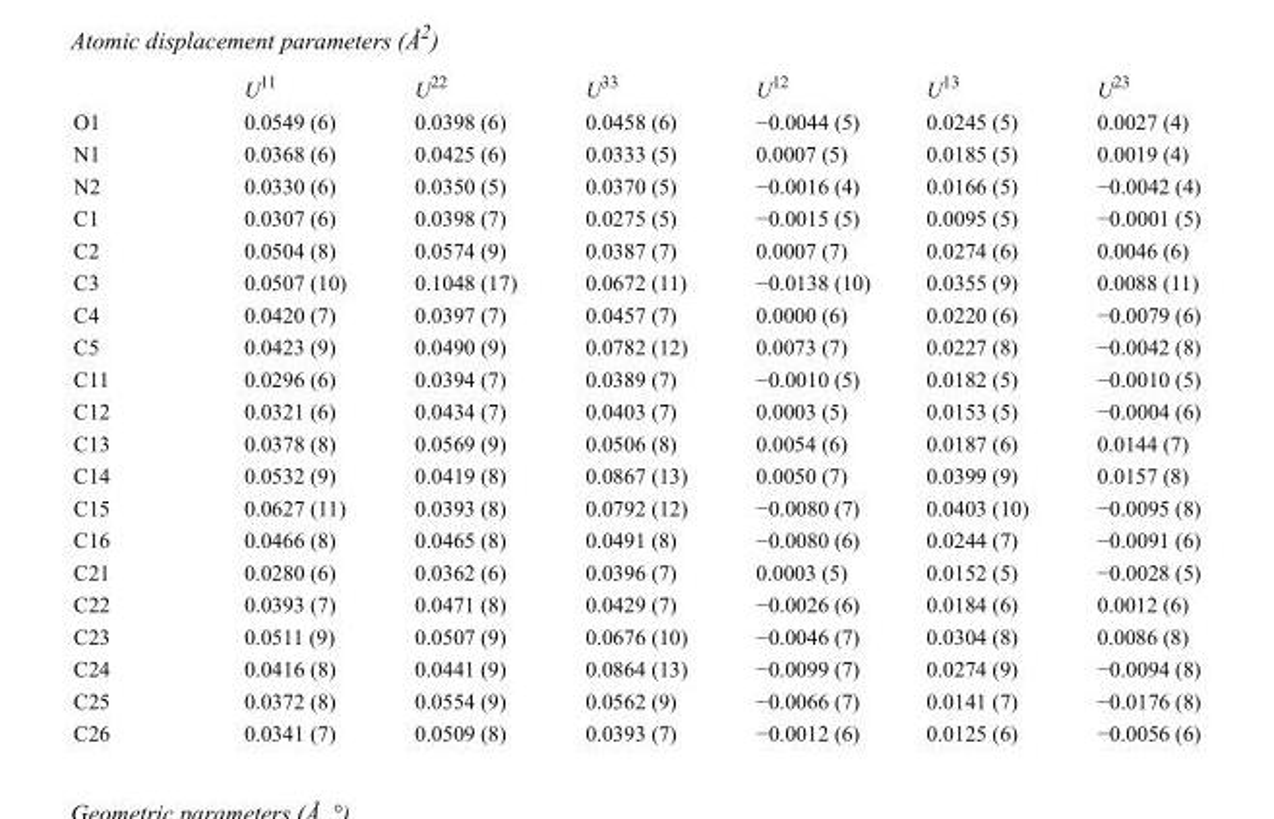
<table><thead><tr><td></td><td>U<sup>11</sup></td><td>U<sup>22</sup></td><td>U<sup>33</sup></td><td>U<sup>12</sup></td><td>U<sup>13</sup></td><td>U<sup>23</sup></td></tr></thead><tbody><tr><td>O1</td><td>0.0549 (6)</td><td>0.0398 (6)</td><td>0.0458 (6)</td><td>−0.0044 (5)</td><td>0.0245 (5)</td><td>0.0027 (4)</td></tr><tr><td>N1</td><td>0.0368 (6)</td><td>0.0425 (6)</td><td>0.0333 (5)</td><td>0.0007 (5)</td><td>0.0185 (5)</td><td>0.0019 (4)</td></tr><tr><td>N2</td><td>0.0330 (6)</td><td>0.0350 (5)</td><td>0.0370 (5)</td><td>−0.0016 (4)</td><td>0.0166 (5)</td><td>−0.0042 (4)</td></tr><tr><td>C1</td><td>0.0307 (6)</td><td>0.0398 (7)</td><td>0.0275 (5)</td><td>−0.0015 (5)</td><td>0.0095 (5)</td><td>−0.0001 (5)</td></tr><tr><td>C2</td><td>0.0504 (8)</td><td>0.0574 (9)</td><td>0.0387 (7)</td><td>0.0007 (7)</td><td>0.0274 (6)</td><td>0.0046 (6)</td></tr><tr><td>C3</td><td>0.0507 (10)</td><td>0.1048 (17)</td><td>0.0672 (11)</td><td>−0.0138 (10)</td><td>0.0355 (9)</td><td>0.0088 (11)</td></tr><tr><td>C4</td><td>0.0420 (7)</td><td>0.0397 (7)</td><td>0.0457 (7)</td><td>0.0000 (6)</td><td>0.0220 (6)</td><td>−0.0079 (6)</td></tr><tr><td>C5</td><td>0.0423 (9)</td><td>0.0490 (9)</td><td>0.0782 (12)</td><td>0.0073 (7)</td><td>0.0227 (8)</td><td>−0.0042 (8)</td></tr><tr><td>C11</td><td>0.0296 (6)</td><td>0.0394 (7)</td><td>0.0389 (7)</td><td>−0.0010 (5)</td><td>0.0182 (5)</td><td>−0.0010 (5)</td></tr><tr><td>C12</td><td>0.0321 (6)</td><td>0.0434 (7)</td><td>0.0403 (7)</td><td>0.0003 (5)</td><td>0.0153 (5)</td><td>−0.0004 (6)</td></tr><tr><td>C13</td><td>0.0378 (8)</td><td>0.0569 (9)</td><td>0.0506 (8)</td><td>0.0054 (6)</td><td>0.0187 (6)</td><td>0.0144 (7)</td></tr><tr><td>C14</td><td>0.0532 (9)</td><td>0.0419 (8)</td><td>0.0867 (13)</td><td>0.0050 (7)</td><td>0.0399 (9)</td><td>0.0157 (8)</td></tr><tr><td>C15</td><td>0.0627 (11)</td><td>0.0393 (8)</td><td>0.0792 (12)</td><td>−0.0080 (7)</td><td>0.0403 (10)</td><td>−0.0095 (8)</td></tr><tr><td>C16</td><td>0.0466 (8)</td><td>0.0465 (8)</td><td>0.0491 (8)</td><td>−0.0080 (6)</td><td>0.0244 (7)</td><td>−0.0091 (6)</td></tr><tr><td>C21</td><td>0.0280 (6)</td><td>0.0362 (6)</td><td>0.0396 (7)</td><td>0.0003 (5)</td><td>0.0152 (5)</td><td>−0.0028 (5)</td></tr><tr><td>C22</td><td>0.0393 (7)</td><td>0.0471 (8)</td><td>0.0429 (7)</td><td>−0.0026 (6)</td><td>0.0184 (6)</td><td>0.0012 (6)</td></tr><tr><td>C23</td><td>0.0511 (9)</td><td>0.0507 (9)</td><td>0.0676 (10)</td><td>−0.0046 (7)</td><td>0.0304 (8)</td><td>0.0086 (8)</td></tr><tr><td>C24</td><td>0.0416 (8)</td><td>0.0441 (9)</td><td>0.0864 (13)</td><td>−0.0099 (7)</td><td>0.0274 (9)</td><td>−0.0094 (8)</td></tr><tr><td>C25</td><td>0.0372 (8)</td><td>0.0554 (9)</td><td>0.0562 (9)</td><td>−0.0066 (7)</td><td>0.0141 (7)</td><td>−0.0176 (8)</td></tr><tr><td>C26</td><td>0.0341 (7)</td><td>0.0509 (8)</td><td>0.0393 (7)</td><td>−0.0012 (6)</td><td>0.0125 (6)</td><td>−0.0056 (6)</td></tr></tbody></table>